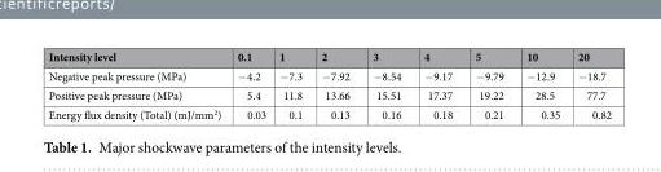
<table><thead><tr><td>Intensity level</td><td>0.1</td><td>1</td><td>2</td><td>3</td><td>4</td><td>5</td><td>10</td><td>20</td></tr></thead><tbody><tr><td>Negative peak pressure (MPa)</td><td>−4.2</td><td>−7.3</td><td>−7.92</td><td>−8.54</td><td>−9.17</td><td>−9.79</td><td>−12.9</td><td>−18.7</td></tr><tr><td>Positive peak pressure (MPa)</td><td>5.4</td><td>11.8</td><td>13.66</td><td>15.51</td><td>17.37</td><td>19.22</td><td>28.5</td><td>77.7</td></tr><tr><td>Energy flux density (Total) (mJ/mm<sup>2</sup>)</td><td>0.03</td><td>0.1</td><td>0.13</td><td>0.16</td><td>0.18</td><td>0.21</td><td>0.35</td><td>0.82</td></tr></tbody></table>